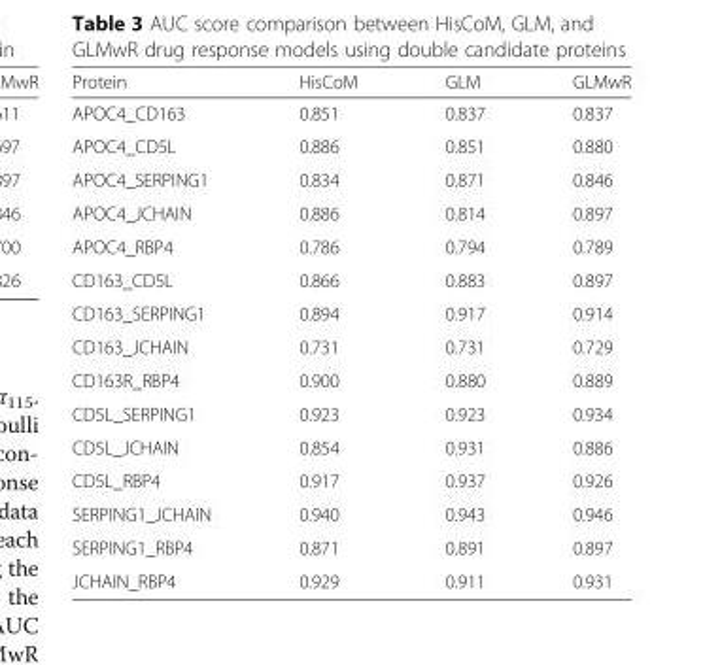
<table><thead><tr><td>Protein</td><td>HisCoM</td><td>GLM</td><td>GLMwR</td></tr></thead><tbody><tr><td>APOC4_CD163</td><td>0.851</td><td>0.837</td><td>0.837</td></tr><tr><td>APOC4_CD5L</td><td>0.886</td><td>0.851</td><td>0.880</td></tr><tr><td>APOC4_SERPING1</td><td>0.834</td><td>0.871</td><td>0.846</td></tr><tr><td>APOC4_JCHAIN</td><td>0.886</td><td>0.814</td><td>0.897</td></tr><tr><td>APOC4_RBP4</td><td>0.786</td><td>0.794</td><td>0.789</td></tr><tr><td>CD163_CD5L</td><td>0.866</td><td>0.883</td><td>0.897</td></tr><tr><td>CD163_SERPING1</td><td>0.894</td><td>0.917</td><td>0.914</td></tr><tr><td>CD163_JCHAIN</td><td>0.731</td><td>0.731</td><td>0.729</td></tr><tr><td>CD163R_RBP4</td><td>0.900</td><td>0.880</td><td>0.889</td></tr><tr><td>CD5L_SERPING1</td><td>0.923</td><td>0.923</td><td>0.934</td></tr><tr><td>CD5L_JCHAIN</td><td>0.854</td><td>0.931</td><td>0.886</td></tr><tr><td>CD5L_RBP4</td><td>0.917</td><td>0.937</td><td>0.926</td></tr><tr><td>SERPING1_JCHAIN</td><td>0.940</td><td>0.943</td><td>0.946</td></tr><tr><td>SERPING1_RBP4</td><td>0.871</td><td>0.891</td><td>0.897</td></tr><tr><td>JCHAIN_RBP4</td><td>0.929</td><td>0.911</td><td>0.931</td></tr></tbody></table>